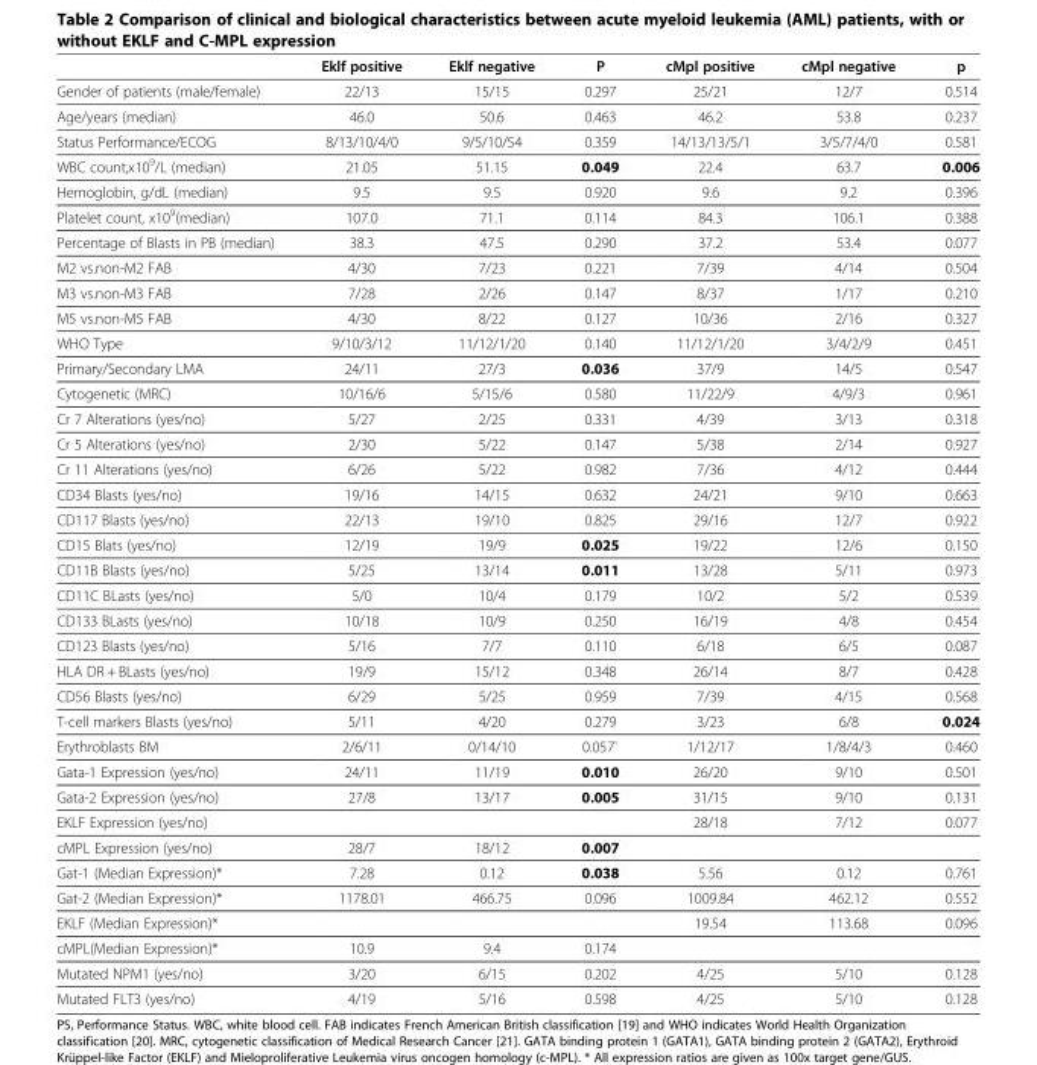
<table><thead><tr><td></td><td>Eklf positive</td><td>Eklf negative</td><td>P</td><td>cMpl positive</td><td>cMpl negative</td><td>p</td></tr></thead><tbody><tr><td>Gender of patients (male/female)</td><td>22/13</td><td>15/15</td><td>0.297</td><td>25/21</td><td>12/7</td><td>0.514</td></tr><tr><td>Age/years (median)</td><td>46.0</td><td>50.6</td><td>0.463</td><td>46.2</td><td>53.8</td><td>0.237</td></tr><tr><td>Status Performance/ECOG</td><td>8/13/10/4/0</td><td>9/5/10/54</td><td>0.359</td><td>14/13/13/5/1</td><td>3/5/7/4/0</td><td>0.581</td></tr><tr><td>WBC count,x10<sup>9</sup>/L (median)</td><td>21.05</td><td>51.15</td><td>0.049</td><td>22.4</td><td>63.7</td><td>0.006</td></tr><tr><td>Hemoglobin, g/dL (median)</td><td>9.5</td><td>9.5</td><td>0.920</td><td>9.6</td><td>9.2</td><td>0.396</td></tr><tr><td>Platelet count, x10<sup>9</sup>(median)</td><td>107.0</td><td>71.1</td><td>0.114</td><td>84.3</td><td>106.1</td><td>0.388</td></tr><tr><td>Percentage of Blasts in PB (median)</td><td>38.3</td><td>47.5</td><td>0.290</td><td>37.2</td><td>53.4</td><td>0.077</td></tr><tr><td>M2 vs.non-M2 FAB</td><td>4/30</td><td>7/23</td><td>0.221</td><td>7/39</td><td>4/14</td><td>0.504</td></tr><tr><td>M3 vs.non-M3 FAB</td><td>7/28</td><td>2/26</td><td>0.147</td><td>8/37</td><td>1/17</td><td>0.210</td></tr><tr><td>M5 vs.non-M5 FAB</td><td>4/30</td><td>8/22</td><td>0.127</td><td>10/36</td><td>2/16</td><td>0.327</td></tr><tr><td>WHO Type</td><td>9/10/3/12</td><td>11/12/1/20</td><td>0.140</td><td>11/12/1/20</td><td>3/4/2/9</td><td>0.451</td></tr><tr><td>Primary/Secondary LMA</td><td>24/11</td><td>27/3</td><td>0.036</td><td>37/9</td><td>14/5</td><td>0.547</td></tr><tr><td>Cytogenetic (MRC)</td><td>10/16/6</td><td>5/15/6</td><td>0.580</td><td>11/22/9</td><td>4/9/3</td><td>0.961</td></tr><tr><td>Cr 7 Alterations (yes/no)</td><td>5/27</td><td>2/25</td><td>0.331</td><td>4/39</td><td>3/13</td><td>0.318</td></tr><tr><td>Cr 5 Alterations (yes/no)</td><td>2/30</td><td>5/22</td><td>0.147</td><td>5/38</td><td>2/14</td><td>0.927</td></tr><tr><td>Cr 11 Alterations (yes/no)</td><td>6/26</td><td>5/22</td><td>0.982</td><td>7/36</td><td>4/12</td><td>0.444</td></tr><tr><td>CD34 Blasts (yes/no)</td><td>19/16</td><td>14/15</td><td>0.632</td><td>24/21</td><td>9/10</td><td>0.663</td></tr><tr><td>CD117 Blasts (yes/no)</td><td>22/13</td><td>19/10</td><td>0.825</td><td>29/16</td><td>12/7</td><td>0.922</td></tr><tr><td>CD15 Blats (yes/no)</td><td>12/19</td><td>19/9</td><td>0.025</td><td>19/22</td><td>12/6</td><td>0.150</td></tr><tr><td>CD11B Blasts (yes/no)</td><td>5/25</td><td>13/14</td><td>0.011</td><td>13/28</td><td>5/11</td><td>0.973</td></tr><tr><td>CD11C BLasts (yes/no)</td><td>5/0</td><td>10/4</td><td>0.179</td><td>10/2</td><td>5/2</td><td>0.539</td></tr><tr><td>CD133 BLasts (yes/no)</td><td>10/18</td><td>10/9</td><td>0.250</td><td>16/19</td><td>4/8</td><td>0.454</td></tr><tr><td>CD123 Blasts (yes/no)</td><td>5/16</td><td>7/7</td><td>0.110</td><td>6/18</td><td>6/5</td><td>0.087</td></tr><tr><td>HLA DR + BLasts (yes/no)</td><td>19/9</td><td>15/12</td><td>0.348</td><td>26/14</td><td>8/7</td><td>0.428</td></tr><tr><td>CD56 Blasts (yes/no)</td><td>6/29</td><td>5/25</td><td>0.959</td><td>7/39</td><td>4/15</td><td>0.568</td></tr><tr><td>T-cell markers Blasts (yes/no)</td><td>5/11</td><td>4/20</td><td>0.279</td><td>3/23</td><td>6/8</td><td>0.024</td></tr><tr><td>Erythroblasts BM</td><td>2/6/11</td><td>0/14/10</td><td>0.057`</td><td>1/12/17</td><td>1/8/4/3</td><td>0.460</td></tr><tr><td>Gata-1 Expression (yes/no)</td><td>24/11</td><td>11/19</td><td>0.010</td><td>26/20</td><td>9/10</td><td>0.501</td></tr><tr><td>Gata-2 Expression (yes/no)</td><td>27/8</td><td>13/17</td><td>0.005</td><td>31/15</td><td>9/10</td><td>0.131</td></tr><tr><td>EKLF Expression (yes/no)</td><td></td><td></td><td></td><td>28/18</td><td>7/12</td><td>0.077</td></tr><tr><td>cMPL Expression (yes/no)</td><td>28/7</td><td>18/12</td><td>0.007</td><td></td><td></td><td></td></tr><tr><td>Gat-1 (Median Expression)*</td><td>7.28</td><td>0.12</td><td>0.038</td><td>5.56</td><td>0.12</td><td>0.761</td></tr><tr><td>Gat-2 (Median Expression)*</td><td>1178.01</td><td>466.75</td><td>0.096</td><td>1009.84</td><td>462.12</td><td>0.552</td></tr><tr><td>EKLF (Median Expression)*</td><td></td><td></td><td></td><td>19.54</td><td>113.68</td><td>0.096</td></tr><tr><td>cMPL(Median Expression)*</td><td>10.9</td><td>9.4</td><td>0.174</td><td></td><td></td><td></td></tr><tr><td>Mutated NPM1 (yes/no)</td><td>3/20</td><td>6/15</td><td>0.202</td><td>4/25</td><td>5/10</td><td>0.128</td></tr><tr><td>Mutated FLT3 (yes/no)</td><td>4/19</td><td>5/16</td><td>0.598</td><td>4/25</td><td>5/10</td><td>0.128</td></tr></tbody></table>